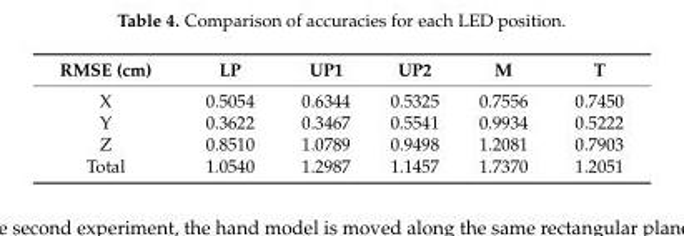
<table><thead><tr><td>RMSE (cm)</td><td>LP</td><td>UP1</td><td>UP2</td><td>M</td><td>T</td></tr></thead><tbody><tr><td>X</td><td>0.5054</td><td>0.6344</td><td>0.5325</td><td>0.7556</td><td>0.7450</td></tr><tr><td>Y</td><td>0.3622</td><td>0.3467</td><td>0.5541</td><td>0.9934</td><td>0.5222</td></tr><tr><td>Z</td><td>0.8510</td><td>1.0789</td><td>0.9498</td><td>1.2081</td><td>0.7903</td></tr><tr><td>Total</td><td>1.0540</td><td>1.2987</td><td>1.1457</td><td>1.7370</td><td>1.2051</td></tr></tbody></table>